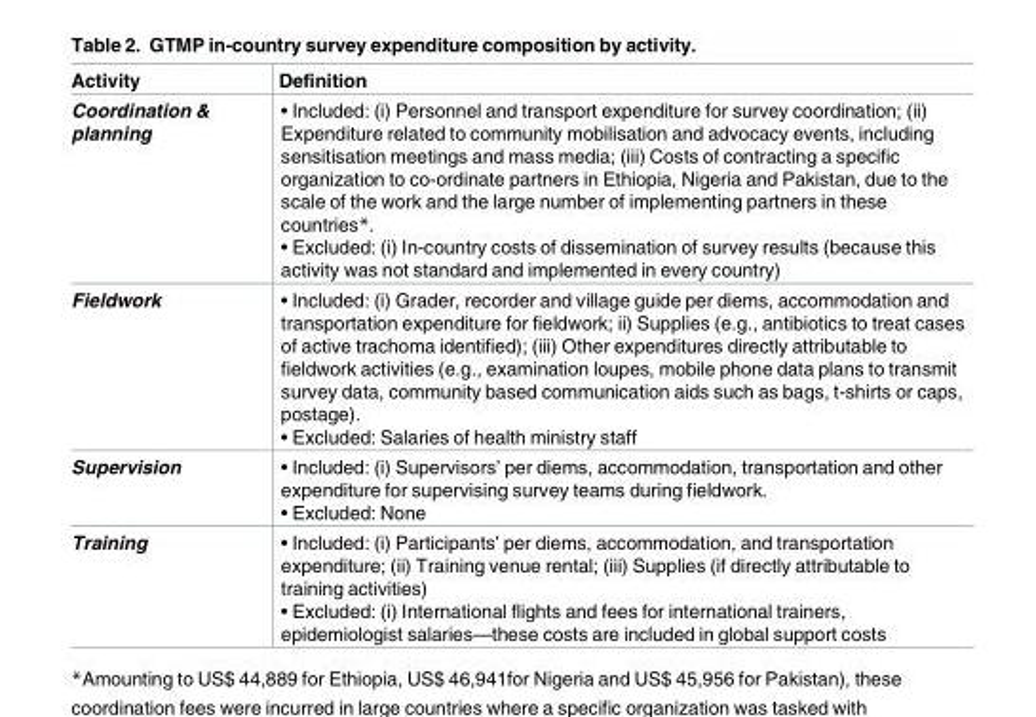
<table><thead><tr><td>Activity</td><td>Definition</td></tr></thead><tbody><tr><td>Coordination &amp; planning</td><td>• Included: (i) Personnel and transport expenditure for survey coordination; (ii) Expenditure related to community mobilisation and advocacy events, including sensitisation meetings and mass media; (iii) Costs of contracting a specific organization to co-ordinate partners in Ethiopia, Nigeria and Pakistan, due to the scale of the work and the large number of implementing partners in these countries*. • Excluded: (i) In-country costs of dissemination of survey results (because this activity was not standard and implemented in every country)</td></tr><tr><td>Fieldwork</td><td>• Included: (i) Grader, recorder and village guide per diems, accommodation and transportation expenditure for fieldwork; ii) Supplies (e.g., antibiotics to treat cases of active trachoma identified); (iii) Other expenditures directly attributable to fieldwork activities (e.g., examination loupes, mobile phone data plans to transmit survey data, community based communication aids such as bags, t-shirts or caps, postage). • Excluded: Salaries of health ministry staff</td></tr><tr><td>Supervision</td><td>• Included: (i) Supervisors’ per diems, accommodation, transportation and other expenditure for supervising survey teams during fieldwork. • Excluded: None</td></tr><tr><td>Training</td><td>• Included: (i) Participants’ per diems, accommodation, and transportation expenditure; (ii) Training venue rental; (iii) Supplies (if directly attributable to training activities) • Excluded: (i) International flights and fees for international trainers, epidemiologist salaries—these costs are included in global support costs</td></tr></tbody></table>